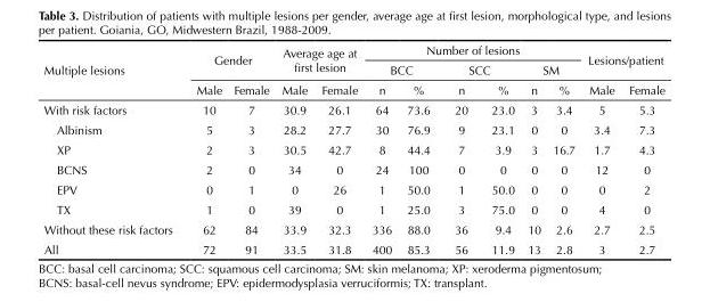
<table><thead><tr><td rowspan="3">Multiple lesions</td><td rowspan="2" colspan="2">Gender</td><td rowspan="2" colspan="2">Average age at first lesion</td><td colspan="6">Number of lesions</td><td rowspan="2" colspan="2">Lesions/patient</td></tr><tr><td colspan="2">BCC</td><td colspan="2">SCC</td><td colspan="2">SM</td></tr><tr><td>Male</td><td>Female</td><td>Male</td><td>Female</td><td>n</td><td>%</td><td>n</td><td>%</td><td>n</td><td>%</td><td>Male</td><td>Female</td></tr></thead><tbody><tr><td>With risk factors</td><td>10</td><td>7</td><td>30.9</td><td>26.1</td><td>64</td><td>73.6</td><td>20</td><td>23.0</td><td>3</td><td>3.4</td><td>5</td><td>5.3</td></tr><tr><td>Albinism</td><td>5</td><td>3</td><td>28.2</td><td>27.7</td><td>30</td><td>76.9</td><td>9</td><td>23.1</td><td>0</td><td>0</td><td>3.4</td><td>7.3</td></tr><tr><td>XP</td><td>2</td><td>3</td><td>30.5</td><td>42.7</td><td>8</td><td>44.4</td><td>7</td><td>3.9</td><td>3</td><td>16.7</td><td>1.7</td><td>4.3</td></tr><tr><td>BCNS</td><td>2</td><td>0</td><td>34</td><td>0</td><td>24</td><td>100</td><td>0</td><td>0</td><td>0</td><td>0</td><td>12</td><td>0</td></tr><tr><td>EPV</td><td>0</td><td>1</td><td>0</td><td>26</td><td>1</td><td>50.0</td><td>1</td><td>50.0</td><td>0</td><td>0</td><td>0</td><td>2</td></tr><tr><td>TX</td><td>1</td><td>0</td><td>39</td><td>0</td><td>1</td><td>25.0</td><td>3</td><td>75.0</td><td>0</td><td>0</td><td>4</td><td>0</td></tr><tr><td>Without these risk factors</td><td>62</td><td>84</td><td>33.9</td><td>32.3</td><td>336</td><td>88.0</td><td>36</td><td>9.4</td><td>10</td><td>2.6</td><td>2.7</td><td>2.5</td></tr><tr><td>All</td><td>72</td><td>91</td><td>33.5</td><td>31.8</td><td>400</td><td>85.3</td><td>56</td><td>11.9</td><td>13</td><td>2.8</td><td>3</td><td>2.7</td></tr></tbody></table>